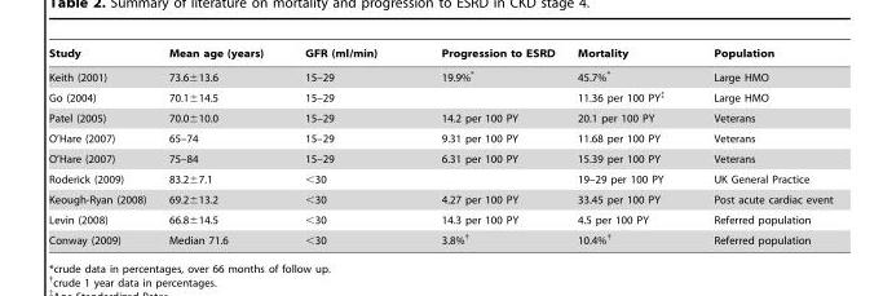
<table><thead><tr><td>Study</td><td>Mean age (years)</td><td>GFR (ml/min)</td><td>Progression to ESRD</td><td>Mortality</td><td>Population</td></tr></thead><tbody><tr><td>Keith (2001)</td><td>73.6±13.6</td><td>15–29</td><td>19.9%*</td><td>45.7%*</td><td>Large HMO</td></tr><tr><td>Go (2004)</td><td>70.1±14.5</td><td>15–29</td><td></td><td>11.36 per 100 PY‡</td><td>Large HMO</td></tr><tr><td>Patel (2005)</td><td>70.0±10.0</td><td>15–29</td><td>14.2 per 100 PY</td><td>20.1 per 100 PY</td><td>Veterans</td></tr><tr><td>O’Hare (2007)</td><td>65–74</td><td>15–29</td><td>9.31 per 100 PY</td><td>11.68 per 100 PY</td><td>Veterans</td></tr><tr><td>O’Hare (2007)</td><td>75–84</td><td>15–29</td><td>6.31 per 100 PY</td><td>15.39 per 100 PY</td><td>Veterans</td></tr><tr><td>Roderick (2009)</td><td>83.2±7.1</td><td>&lt;30</td><td></td><td>19–29 per 100 PY</td><td>UK General Practice</td></tr><tr><td>Keough-Ryan (2008)</td><td>69.2±13.2</td><td>&lt;30</td><td>4.27 per 100 PY</td><td>33.45 per 100 PY</td><td>Post acute cardiac event</td></tr><tr><td>Levin (2008)</td><td>66.8±14.5</td><td>&lt;30</td><td>14.3 per 100 PY</td><td>4.5 per 100 PY</td><td>Referred population</td></tr><tr><td>Conway (2009)</td><td>Median 71.6</td><td>&lt;30</td><td>3.8%†</td><td>10.4%†</td><td>Referred population</td></tr></tbody></table>